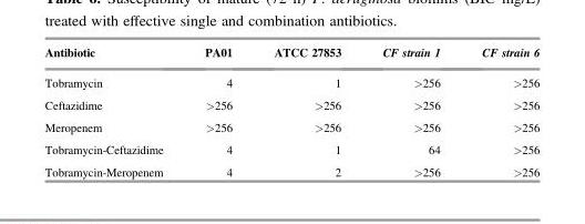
<table><thead><tr><td>Antibiotic</td><td>PA01</td><td>ATCC 27853</td><td>CF strain 1</td><td>CF strain 6</td></tr></thead><tbody><tr><td>Tobramycin</td><td>4</td><td>1</td><td>&gt;256</td><td>&gt;256</td></tr><tr><td>Ceftazidime</td><td>&gt;256</td><td>&gt;256</td><td>&gt;256</td><td>&gt;256</td></tr><tr><td>Meropenem</td><td>&gt;256</td><td>&gt;256</td><td>&gt;256</td><td>&gt;256</td></tr><tr><td>Tobramycin-Ceftazidime</td><td>4</td><td>1</td><td>64</td><td>&gt;256</td></tr><tr><td>Tobramycin-Meropenem</td><td>4</td><td>2</td><td>&gt;256</td><td>&gt;256</td></tr></tbody></table>